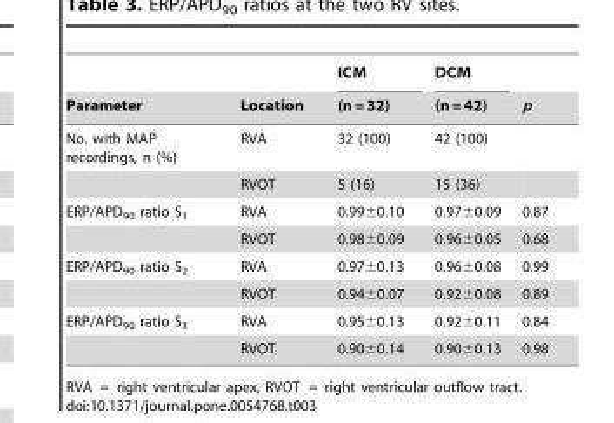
<table><thead><tr><td rowspan="2">Parameter</td><td rowspan="2">Location</td><td rowspan="2">ICM (n = 32)</td><td rowspan="2">DCM (n = 42)</td><td rowspan="2">p</td></tr><tr></tr></thead><tbody><tr><td rowspan="2">No. with MAP recordings, n (%)</td><td>RVA</td><td>32 (100)</td><td>42 (100)</td><td></td></tr><tr><td>RVOT</td><td>5 (16)</td><td>15 (36)</td><td></td></tr><tr><td rowspan="2">ERP/APD<sub>90</sub> ratio S<sub>1</sub></td><td>RVA</td><td>0.99±0.10</td><td>0.97±0.09</td><td>0.87</td></tr><tr><td>RVOT</td><td>0.98±0.09</td><td>0.96±0.05</td><td>0.68</td></tr><tr><td rowspan="2">ERP/APD<sub>90</sub> ratio S<sub>2</sub></td><td>RVA</td><td>0.97±0.13</td><td>0.96±0.08</td><td>0.99</td></tr><tr><td>RVOT</td><td>0.94±0.07</td><td>0.92±0.08</td><td>0.89</td></tr><tr><td rowspan="2">ERP/APD<sub>90</sub> ratio S<sub>3</sub></td><td>RVA</td><td>0.95±0.13</td><td>0.92±0.11</td><td>0.84</td></tr><tr><td>RVOT</td><td>0.90±0.14</td><td>0.90±0.13</td><td>0.98</td></tr></tbody></table>